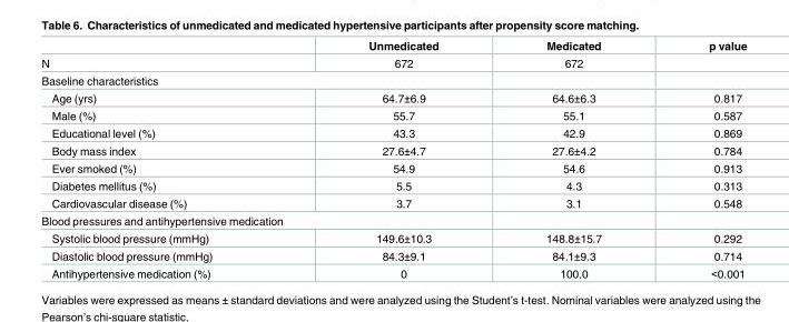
<table><thead><tr><td></td><td>Unmedicated</td><td>Medicated</td><td>p value</td></tr></thead><tbody><tr><td>N</td><td>672</td><td>672</td><td></td></tr><tr><td colspan="4">Baseline characteristics</td></tr><tr><td>Age (yrs)</td><td>64.7±6.9</td><td>64.6±6.3</td><td>0.817</td></tr><tr><td>Male (%)</td><td>55.7</td><td>55.1</td><td>0.587</td></tr><tr><td>Educational level (%)</td><td>43.3</td><td>42.9</td><td>0.869</td></tr><tr><td>Body mass index</td><td>27.6±4.7</td><td>27.6±4.2</td><td>0.784</td></tr><tr><td>Ever smoked (%)</td><td>54.9</td><td>54.6</td><td>0.913</td></tr><tr><td>Diabetes mellitus (%)</td><td>5.5</td><td>4.3</td><td>0.313</td></tr><tr><td>Cardiovascular disease (%)</td><td>3.7</td><td>3.1</td><td>0.548</td></tr><tr><td colspan="4">Blood pressures and antihypertensive medication</td></tr><tr><td>Systolic blood pressure (mmHg)</td><td>149.6±10.3</td><td>148.8±15.7</td><td>0.292</td></tr><tr><td>Diastolic blood pressure (mmHg)</td><td>84.3±9.1</td><td>84.1±9.3</td><td>0.714</td></tr><tr><td>Antihypertensive medication (%)</td><td>0</td><td>100.0</td><td>&lt;0.001</td></tr></tbody></table>